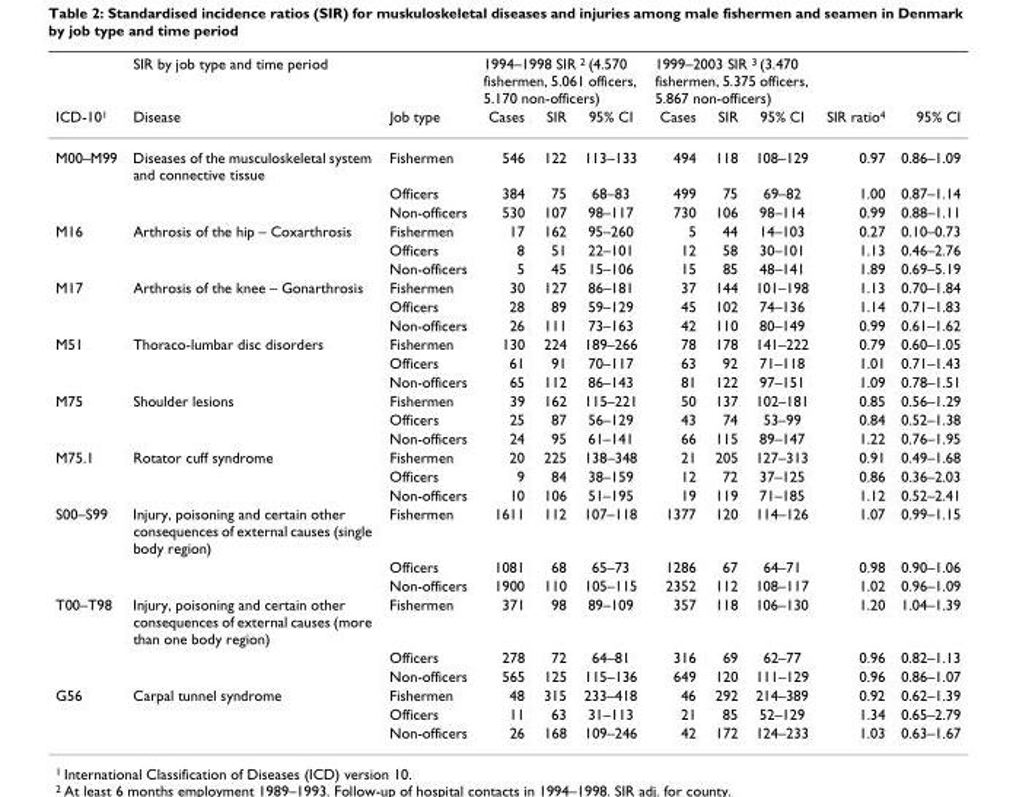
<table><thead><tr><td rowspan="2">ICD-10<sup>1</sup></td><td rowspan="2">SIR by job type and time period Disease</td><td rowspan="2">Job type</td><td colspan="3">1994–1998 SIR <sup>2</sup> (4.570 fishermen, 5.061 officers, 5.170 non-officers)</td><td colspan="3">1999–2003 SIR <sup>3</sup> (3.470 fishermen, 5.375 officers, 5.867 non-officers)</td><td rowspan="2">SIR ratio<sup>4</sup></td><td rowspan="2">95% CI</td></tr><tr><td>Cases</td><td>SIR</td><td>95% CI</td><td>Cases</td><td>SIR</td><td>95% CI</td></tr></thead><tbody><tr><td rowspan="3">M00–M99</td><td>Diseases of the musculoskeletal system and connective tissue</td><td>Fishermen</td><td>546</td><td>122</td><td>113–133</td><td>494</td><td>118</td><td>108–129</td><td>0.97</td><td>0.86–1.09</td></tr><tr><td></td><td>Officers</td><td>384</td><td>75</td><td>68–83</td><td>499</td><td>75</td><td>69–82</td><td>1.00</td><td>0.87–1.14</td></tr><tr><td></td><td>Non-officers</td><td>530</td><td>107</td><td>98–117</td><td>730</td><td>106</td><td>98–114</td><td>0.99</td><td>0.88–1.11</td></tr><tr><td rowspan="3">M16</td><td>Arthrosis of the hip – Coxarthrosis</td><td>Fishermen</td><td>17</td><td>162</td><td>95–260</td><td>5</td><td>44</td><td>14–103</td><td>0.27</td><td>0.10–0.73</td></tr><tr><td></td><td>Officers</td><td>8</td><td>51</td><td>22–101</td><td>12</td><td>58</td><td>30–101</td><td>1.13</td><td>0.46–2.76</td></tr><tr><td></td><td>Non-officers</td><td>5</td><td>45</td><td>15–106</td><td>15</td><td>85</td><td>48–141</td><td>1.89</td><td>0.69–5.19</td></tr><tr><td rowspan="3">M17</td><td>Arthrosis of the knee – Gonarthrosis</td><td>Fishermen</td><td>30</td><td>127</td><td>86–181</td><td>37</td><td>144</td><td>101–198</td><td>1.13</td><td>0.70–1.84</td></tr><tr><td></td><td>Officers</td><td>28</td><td>89</td><td>59–129</td><td>45</td><td>102</td><td>74–136</td><td>1.14</td><td>0.71–1.83</td></tr><tr><td></td><td>Non-officers</td><td>26</td><td>111</td><td>73–163</td><td>42</td><td>110</td><td>80–149</td><td>0.99</td><td>0.61–1.62</td></tr><tr><td rowspan="3">M51</td><td>Thoraco-lumbar disc disorders</td><td>Fishermen</td><td>130</td><td>224</td><td>189–266</td><td>78</td><td>178</td><td>141–222</td><td>0.79</td><td>0.60–1.05</td></tr><tr><td></td><td>Officers</td><td>61</td><td>91</td><td>70–117</td><td>63</td><td>92</td><td>71–118</td><td>1.01</td><td>0.71–1.43</td></tr><tr><td></td><td>Non-officers</td><td>65</td><td>112</td><td>86–143</td><td>81</td><td>122</td><td>97–151</td><td>1.09</td><td>0.78–1.51</td></tr><tr><td rowspan="3">M75</td><td>Shoulder lesions</td><td>Fishermen</td><td>39</td><td>162</td><td>115–221</td><td>50</td><td>137</td><td>102–181</td><td>0.85</td><td>0.56–1.29</td></tr><tr><td></td><td>Officers</td><td>25</td><td>87</td><td>56–129</td><td>43</td><td>74</td><td>53–99</td><td>0.84</td><td>0.52–1.38</td></tr><tr><td></td><td>Non-officers</td><td>24</td><td>95</td><td>61–141</td><td>66</td><td>115</td><td>89–147</td><td>1.22</td><td>0.76–1.95</td></tr><tr><td rowspan="3">M75.1</td><td>Rotator cuff syndrome</td><td>Fishermen</td><td>20</td><td>225</td><td>138–348</td><td>21</td><td>205</td><td>127–313</td><td>0.91</td><td>0.49–1.68</td></tr><tr><td></td><td>Officers</td><td>9</td><td>84</td><td>38–159</td><td>12</td><td>72</td><td>37–125</td><td>0.86</td><td>0.36–2.03</td></tr><tr><td></td><td>Non-officers</td><td>10</td><td>106</td><td>51–195</td><td>19</td><td>119</td><td>71–185</td><td>1.12</td><td>0.52–2.41</td></tr><tr><td rowspan="3">S00–S99</td><td>Injury, poisoning and certain other consequences of external causes (single body region)</td><td>Fishermen</td><td>1611</td><td>112</td><td>107–118</td><td>1377</td><td>120</td><td>114–126</td><td>1.07</td><td>0.99–1.15</td></tr><tr><td></td><td>Officers</td><td>1081</td><td>68</td><td>65–73</td><td>1286</td><td>67</td><td>64–71</td><td>0.98</td><td>0.90–1.06</td></tr><tr><td></td><td>Non-officers</td><td>1900</td><td>110</td><td>105–115</td><td>2352</td><td>112</td><td>108–117</td><td>1.02</td><td>0.96–1.09</td></tr><tr><td rowspan="3">T00–T98</td><td>Injury, poisoning and certain other consequences of external causes (more than one body region)</td><td>Fishermen</td><td>371</td><td>98</td><td>89–109</td><td>357</td><td>118</td><td>106–130</td><td>1.20</td><td>1.04–1.39</td></tr><tr><td></td><td>Officers</td><td>278</td><td>72</td><td>64–81</td><td>316</td><td>69</td><td>62–77</td><td>0.96</td><td>0.82–1.13</td></tr><tr><td></td><td>Non-officers</td><td>565</td><td>125</td><td>115–136</td><td>649</td><td>120</td><td>111–129</td><td>0.96</td><td>0.86–1.07</td></tr><tr><td rowspan="3">G56</td><td>Carpal tunnel syndrome</td><td>Fishermen</td><td>48</td><td>315</td><td>233–418</td><td>46</td><td>292</td><td>214–389</td><td>0.92</td><td>0.62–1.39</td></tr><tr><td></td><td>Officers</td><td>11</td><td>63</td><td>31–113</td><td>21</td><td>85</td><td>52–129</td><td>1.34</td><td>0.65–2.79</td></tr><tr><td></td><td>Non-officers</td><td>26</td><td>168</td><td>109–246</td><td>42</td><td>172</td><td>124–233</td><td>1.03</td><td>0.63–1.67</td></tr></tbody></table>